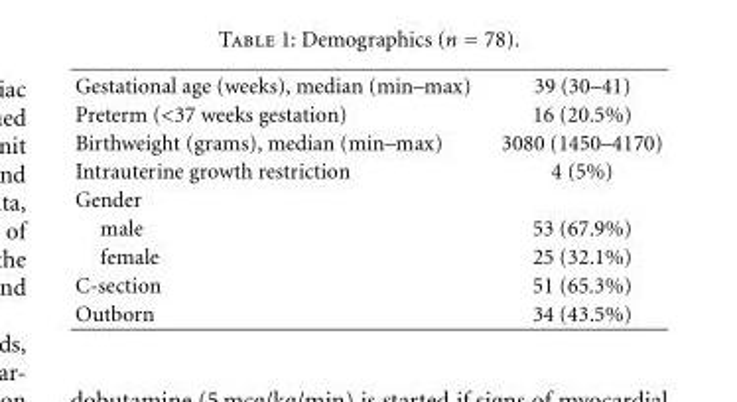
<table><tbody><tr><td>Gestational age (weeks), median (min–max)</td><td>39 (30–41)</td></tr><tr><td>Preterm (&lt;37 weeks gestation)</td><td>16 (20.5%)</td></tr><tr><td>Birthweight (grams), median (min–max)</td><td>3080 (1450–4170)</td></tr><tr><td>Intrauterine growth restriction</td><td>4 (5%)</td></tr><tr><td colspan="2">Gender</td></tr><tr><td>male</td><td>53 (67.9%)</td></tr><tr><td>female</td><td>25 (32.1%)</td></tr><tr><td>C-section</td><td>51 (65.3%)</td></tr><tr><td>Outborn</td><td>34 (43.5%)</td></tr></tbody></table>